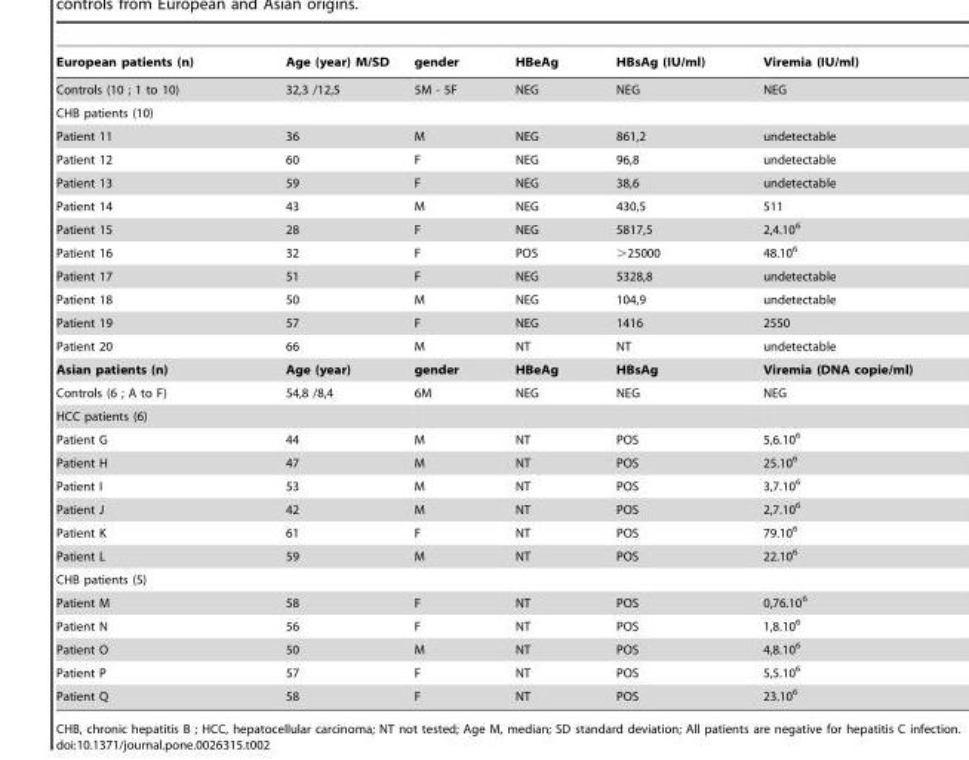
<table><thead><tr><td>European patients (n)</td><td>Age (year) M/SD</td><td>gender</td><td>HBeAg</td><td>HBsAg (IU/ml)</td><td>Viremia (IU/ml)</td></tr></thead><tbody><tr><td>Controls (10 ; 1 to 10)</td><td>32,3 /12,5</td><td>5M - 5F</td><td>NEG</td><td>NEG</td><td>NEG</td></tr><tr><td colspan="6">CHB patients (10)</td></tr><tr><td>Patient 11</td><td>36</td><td>M</td><td>NEG</td><td>861,2</td><td>undetectable</td></tr><tr><td>Patient 12</td><td>60</td><td>F</td><td>NEG</td><td>96,8</td><td>undetectable</td></tr><tr><td>Patient 13</td><td>59</td><td>F</td><td>NEG</td><td>38,6</td><td>undetectable</td></tr><tr><td>Patient 14</td><td>43</td><td>M</td><td>NEG</td><td>430,5</td><td>511</td></tr><tr><td>Patient 15</td><td>28</td><td>F</td><td>NEG</td><td>5817,5</td><td>2,4.10<sup>6</sup></td></tr><tr><td>Patient 16</td><td>32</td><td>F</td><td>POS</td><td>&gt;25000</td><td>48.10<sup>6</sup></td></tr><tr><td>Patient 17</td><td>51</td><td>F</td><td>NEG</td><td>5328,8</td><td>undetectable</td></tr><tr><td>Patient 18</td><td>50</td><td>M</td><td>NEG</td><td>104,9</td><td>undetectable</td></tr><tr><td>Patient 19</td><td>57</td><td>F</td><td>NEG</td><td>1416</td><td>2550</td></tr><tr><td>Patient 20</td><td>66</td><td>M</td><td>NT</td><td>NT</td><td>undetectable</td></tr><tr><td>Asian patients (n)</td><td>Age (year)</td><td>gender</td><td>HBeAg</td><td>HBsAg</td><td>Viremia (DNA copie/ml)</td></tr><tr><td>Controls (6 ; A to F)</td><td>54,8 /8,4</td><td>6M</td><td>NEG</td><td>NEG</td><td>NEG</td></tr><tr><td colspan="6">HCC patients (6)</td></tr><tr><td>Patient G</td><td>44</td><td>M</td><td>NT</td><td>POS</td><td>5,6.10<sup>6</sup></td></tr><tr><td>Patient H</td><td>47</td><td>M</td><td>NT</td><td>POS</td><td>25.10<sup>6</sup></td></tr><tr><td>Patient I</td><td>53</td><td>M</td><td>NT</td><td>POS</td><td>3,7.10<sup>6</sup></td></tr><tr><td>Patient J</td><td>42</td><td>M</td><td>NT</td><td>POS</td><td>2,7.10<sup>6</sup></td></tr><tr><td>Patient K</td><td>61</td><td>F</td><td>NT</td><td>POS</td><td>79.10<sup>6</sup></td></tr><tr><td>Patient L</td><td>59</td><td>M</td><td>NT</td><td>POS</td><td>22.10<sup>6</sup></td></tr><tr><td colspan="6">CHB patients (5)</td></tr><tr><td>Patient M</td><td>58</td><td>F</td><td>NT</td><td>POS</td><td>0,76.10<sup>6</sup></td></tr><tr><td>Patient N</td><td>56</td><td>F</td><td>NT</td><td>POS</td><td>1,8.10<sup>6</sup></td></tr><tr><td>Patient O</td><td>50</td><td>M</td><td>NT</td><td>POS</td><td>4,8.10<sup>6</sup></td></tr><tr><td>Patient P</td><td>57</td><td>F</td><td>NT</td><td>POS</td><td>5,5.10<sup>6</sup></td></tr><tr><td>Patient Q</td><td>58</td><td>F</td><td>NT</td><td>POS</td><td>23.10<sup>6</sup></td></tr></tbody></table>